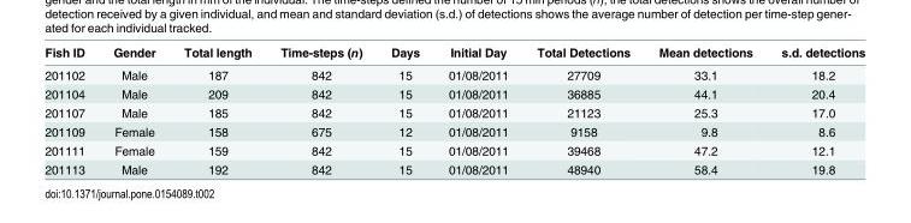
<table><thead><tr><td>Fish ID</td><td>Gender</td><td>Total length</td><td>Time-steps (n)</td><td>Days</td><td>Initial Day</td><td>Total Detections</td><td>Mean detections</td><td>s.d. detections</td></tr></thead><tbody><tr><td>201102</td><td>Male</td><td>187</td><td>842</td><td>15</td><td>01/08/2011</td><td>27709</td><td>33.1</td><td>18.2</td></tr><tr><td>201104</td><td>Male</td><td>209</td><td>842</td><td>15</td><td>01/08/2011</td><td>36885</td><td>44.1</td><td>20.4</td></tr><tr><td>201107</td><td>Male</td><td>185</td><td>842</td><td>15</td><td>01/08/2011</td><td>21123</td><td>25.3</td><td>17.0</td></tr><tr><td>201109</td><td>Female</td><td>158</td><td>675</td><td>12</td><td>01/08/2011</td><td>9158</td><td>9.8</td><td>8.6</td></tr><tr><td>201111</td><td>Female</td><td>159</td><td>842</td><td>15</td><td>01/08/2011</td><td>39468</td><td>47.2</td><td>12.1</td></tr><tr><td>201113</td><td>Male</td><td>192</td><td>842</td><td>15</td><td>01/08/2011</td><td>48940</td><td>58.4</td><td>19.8</td></tr></tbody></table>